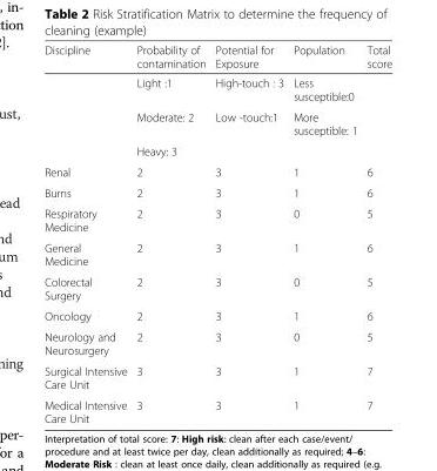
<table><thead><tr><td>Discipline</td><td>Probability of contamination</td><td>Potential for Exposure</td><td>Population</td><td>Total score</td></tr></thead><tbody><tr><td rowspan="3"></td><td>Light :1</td><td>High-touch : 3</td><td>Less susceptible:0</td><td rowspan="3"></td></tr><tr><td>Moderate: 2</td><td>Low -touch:1</td><td>More susceptible: 1</td></tr><tr><td>Heavy: 3</td><td></td><td></td></tr><tr><td>Renal</td><td>2</td><td>3</td><td>1</td><td>6</td></tr><tr><td>Burns</td><td>2</td><td>3</td><td>1</td><td>6</td></tr><tr><td>Respiratory Medicine</td><td>2</td><td>3</td><td>0</td><td>5</td></tr><tr><td>General Medicine</td><td>2</td><td>3</td><td>1</td><td>6</td></tr><tr><td>Colorectal Surgery</td><td>2</td><td>3</td><td>0</td><td>5</td></tr><tr><td>Oncology</td><td>2</td><td>3</td><td>1</td><td>6</td></tr><tr><td>Neurology and Neurosurgery</td><td>2</td><td>3</td><td>0</td><td>5</td></tr><tr><td>Surgical Intensive Care Unit</td><td>3</td><td>3</td><td>1</td><td>7</td></tr><tr><td>Medical Intensive Care Unit</td><td>3</td><td>3</td><td>1</td><td>7</td></tr></tbody></table>